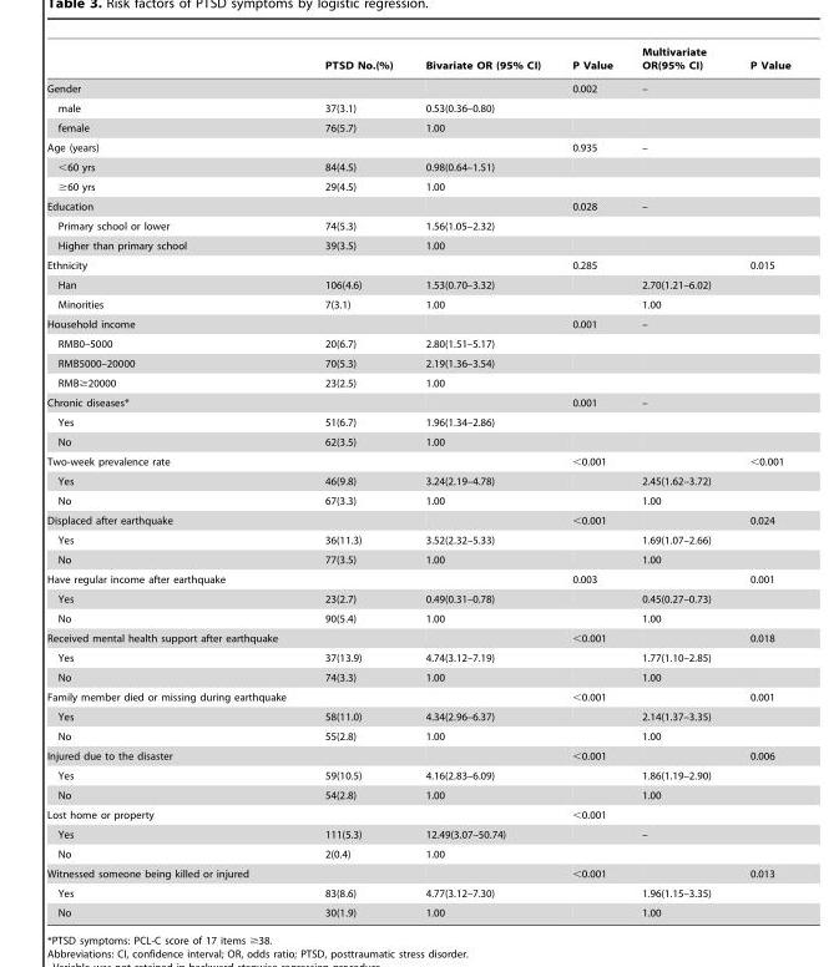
<table><thead><tr><td></td><td>PTSD No.(%)</td><td>Bivariate OR (95% CI)</td><td>P Value</td><td>Multivariate OR(95% CI)</td><td>P Value</td></tr></thead><tbody><tr><td>Gender</td><td></td><td></td><td>0.002</td><td>–</td><td></td></tr><tr><td>male</td><td>37(3.1)</td><td>0.53(0.36–0.80)</td><td></td><td></td><td></td></tr><tr><td>female</td><td>76(5.7)</td><td>1.00</td><td></td><td></td><td></td></tr><tr><td>Age (years)</td><td></td><td></td><td>0.935</td><td>–</td><td></td></tr><tr><td>&lt;60 yrs</td><td>84(4.5)</td><td>0.98(0.64–1.51)</td><td></td><td></td><td></td></tr><tr><td>≥60 yrs</td><td>29(4.5)</td><td>1.00</td><td></td><td></td><td></td></tr><tr><td>Education</td><td></td><td></td><td>0.028</td><td>–</td><td></td></tr><tr><td>Primary school or lower</td><td>74(5.3)</td><td>1.56(1.05–2.32)</td><td></td><td></td><td></td></tr><tr><td>Higher than primary school</td><td>39(3.5)</td><td>1.00</td><td></td><td></td><td></td></tr><tr><td>Ethnicity</td><td></td><td></td><td>0.285</td><td></td><td>0.015</td></tr><tr><td>Han</td><td>106(4.6)</td><td>1.53(0.70–3.32)</td><td></td><td>2.70(1.21–6.02)</td><td></td></tr><tr><td>Minorities</td><td>7(3.1)</td><td>1.00</td><td></td><td>1.00</td><td></td></tr><tr><td>Household income</td><td></td><td></td><td>0.001</td><td>–</td><td></td></tr><tr><td>RMB0–5000</td><td>20(6.7)</td><td>2.80(1.51–5.17)</td><td></td><td></td><td></td></tr><tr><td>RMB5000–20000</td><td>70(5.3)</td><td>2.19(1.36–3.54)</td><td></td><td></td><td></td></tr><tr><td>RMB≥20000</td><td>23(2.5)</td><td>1.00</td><td></td><td></td><td></td></tr><tr><td>Chronic diseases*</td><td></td><td></td><td>0.001</td><td>–</td><td></td></tr><tr><td>Yes</td><td>51(6.7)</td><td>1.96(1.34–2.86)</td><td></td><td></td><td></td></tr><tr><td>No</td><td>62(3.5)</td><td>1.00</td><td></td><td></td><td></td></tr><tr><td>Two-week prevalence rate</td><td></td><td></td><td>&lt;0.001</td><td></td><td>&lt;0.001</td></tr><tr><td>Yes</td><td>46(9.8)</td><td>3.24(2.19–4.78)</td><td></td><td>2.45(1.62–3.72)</td><td></td></tr><tr><td>No</td><td>67(3.3)</td><td>1.00</td><td></td><td>1.00</td><td></td></tr><tr><td>Displaced after earthquake</td><td></td><td></td><td>&lt;0.001</td><td></td><td>0.024</td></tr><tr><td>Yes</td><td>36(11.3)</td><td>3.52(2.32–5.33)</td><td></td><td>1.69(1.07–2.66)</td><td></td></tr><tr><td>No</td><td>77(3.5)</td><td>1.00</td><td></td><td>1.00</td><td></td></tr><tr><td>Have regular income after earthquake</td><td></td><td></td><td>0.003</td><td></td><td>0.001</td></tr><tr><td>Yes</td><td>23(2.7)</td><td>0.49(0.31–0.78)</td><td></td><td>0.45(0.27–0.73)</td><td></td></tr><tr><td>No</td><td>90(5.4)</td><td>1.00</td><td></td><td>1.00</td><td></td></tr><tr><td>Received mental health support after earthquake</td><td></td><td></td><td>&lt;0.001</td><td></td><td>0.018</td></tr><tr><td>Yes</td><td>37(13.9)</td><td>4.74(3.12–7.19)</td><td></td><td>1.77(1.10–2.85)</td><td></td></tr><tr><td>No</td><td>74(3.3)</td><td>1.00</td><td></td><td>1.00</td><td></td></tr><tr><td>Family member died or missing during earthquake</td><td></td><td></td><td>&lt;0.001</td><td></td><td>0.001</td></tr><tr><td>Yes</td><td>58(11.0)</td><td>4.34(2.96–6.37)</td><td></td><td>2.14(1.37–3.35)</td><td></td></tr><tr><td>No</td><td>55(2.8)</td><td>1.00</td><td></td><td>1.00</td><td></td></tr><tr><td>Injured due to the disaster</td><td></td><td></td><td>&lt;0.001</td><td></td><td>0.006</td></tr><tr><td>Yes</td><td>59(10.5)</td><td>4.16(2.83–6.09)</td><td></td><td>1.86(1.19–2.90)</td><td></td></tr><tr><td>No</td><td>54(2.8)</td><td>1.00</td><td></td><td>1.00</td><td></td></tr><tr><td>Lost home or property</td><td></td><td></td><td>&lt;0.001</td><td></td><td></td></tr><tr><td>Yes</td><td>111(5.3)</td><td>12.49(3.07–50.74)</td><td></td><td>–</td><td></td></tr><tr><td>No</td><td>2(0.4)</td><td>1.00</td><td></td><td></td><td></td></tr><tr><td>Witnessed someone being killed or injured</td><td></td><td></td><td>&lt;0.001</td><td></td><td>0.013</td></tr><tr><td>Yes</td><td>83(8.6)</td><td>4.77(3.12–7.30)</td><td></td><td>1.96(1.15–3.35)</td><td></td></tr><tr><td>No</td><td>30(1.9)</td><td>1.00</td><td></td><td>1.00</td><td></td></tr></tbody></table>